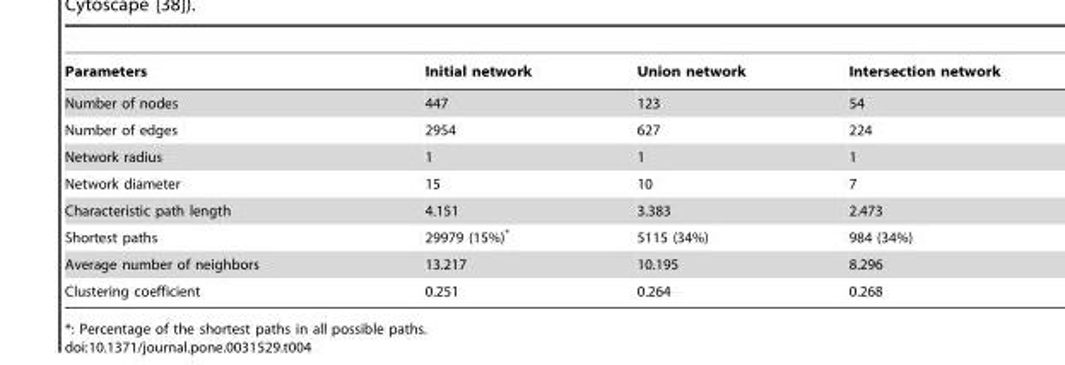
<table><thead><tr><td>Parameters</td><td>Initial network</td><td>Union network</td><td>Intersection network</td></tr></thead><tbody><tr><td>Number of nodes</td><td>447</td><td>123</td><td>54</td></tr><tr><td>Number of edges</td><td>2954</td><td>627</td><td>224</td></tr><tr><td>Network radius</td><td>1</td><td>1</td><td>1</td></tr><tr><td>Network diameter</td><td>15</td><td>10</td><td>7</td></tr><tr><td>Characteristic path length</td><td>4.151</td><td>3.383</td><td>2.473</td></tr><tr><td>Shortest paths</td><td>29979 (15%)*</td><td>5115 (34%)</td><td>984 (34%)</td></tr><tr><td>Average number of neighbors</td><td>13.217</td><td>10.195</td><td>8.296</td></tr><tr><td>Clustering coefficient</td><td>0.251</td><td>0.264</td><td>0.268</td></tr></tbody></table>